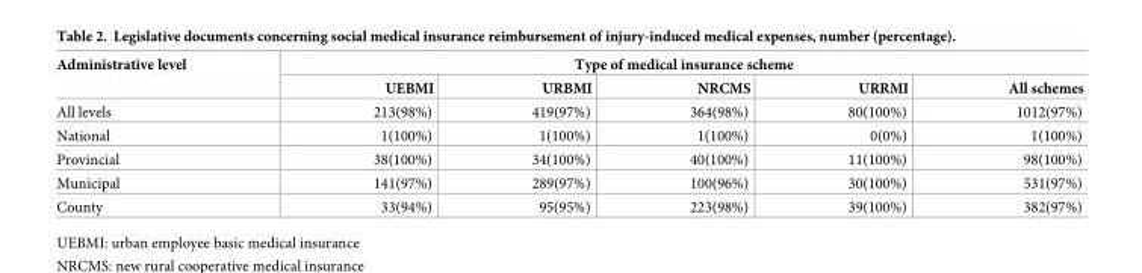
<table><thead><tr><td rowspan="2">Administrative level</td><td colspan="5">Type of medical insurance scheme</td></tr><tr><td>UEBMI</td><td>URBMI</td><td>NRCMS</td><td>URRMI</td><td>All schemes</td></tr></thead><tbody><tr><td>All levels</td><td>213(98%)</td><td>419(97%)</td><td>364(98%)</td><td>80(100%)</td><td>1012(97%)</td></tr><tr><td>National</td><td>1(100%)</td><td>1(100%)</td><td>1(100%)</td><td>0(0%)</td><td>1(100%)</td></tr><tr><td>Provincial</td><td>38(100%)</td><td>34(100%)</td><td>40(100%)</td><td>11(100%)</td><td>98(100%)</td></tr><tr><td>Municipal</td><td>141(97%)</td><td>289(97%)</td><td>100(96%)</td><td>30(100%)</td><td>531(97%)</td></tr><tr><td>County</td><td>33(94%)</td><td>95(95%)</td><td>223(98%)</td><td>39(100%)</td><td>382(97%)</td></tr></tbody></table>